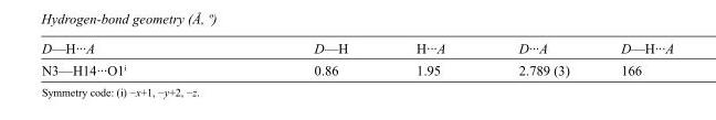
<table><tbody><tr><td>D—H···A</td><td>D—H</td><td>H···A</td><td>D···A</td><td>D—H···A</td></tr><tr><td>N3—H14···O1<sup>i</sup></td><td>0.86</td><td>1.95</td><td>2.789 (3)</td><td>166</td></tr></tbody></table>